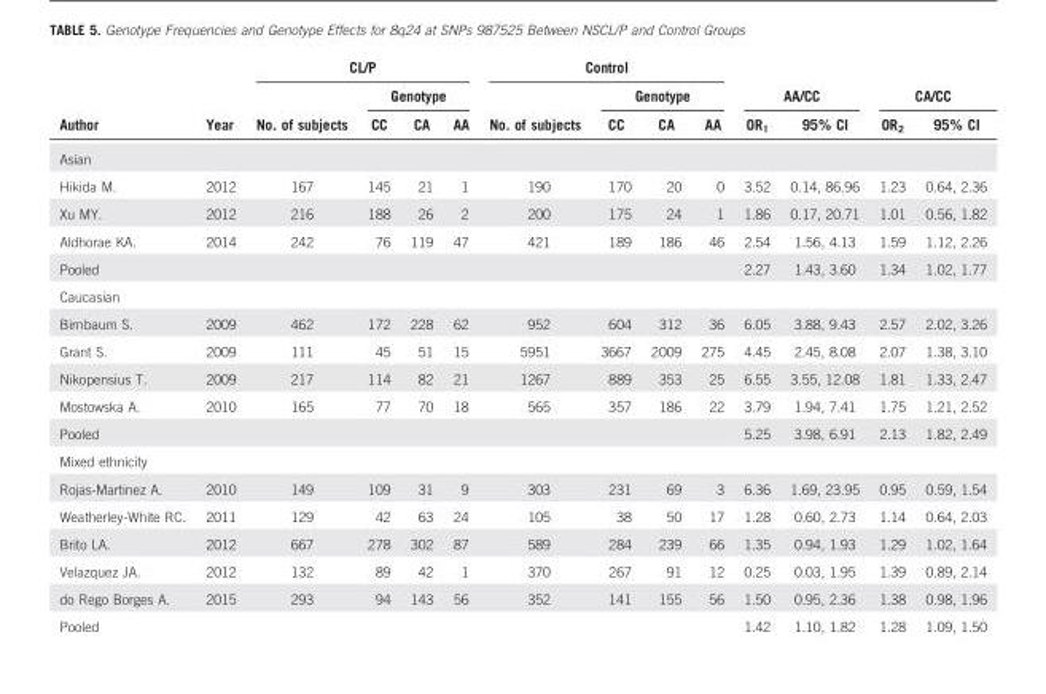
<table><thead><tr><td rowspan="3">Author</td><td rowspan="3">Year</td><td colspan="4">CL/P</td><td colspan="4">Control</td><td></td><td></td><td></td><td></td></tr><tr><td rowspan="2">No. of subjects</td><td colspan="3">Genotype</td><td rowspan="2">No. of subjects</td><td colspan="3">Genotype</td><td colspan="2">AA/CC</td><td colspan="2">CA/CC</td></tr><tr><td>CC</td><td>CA</td><td>AA</td><td>CC</td><td>CA</td><td>AA</td><td>OR<sub>1</sub></td><td>95% CI</td><td>OR<sub>2</sub></td><td>95% CI</td></tr></thead><tbody><tr><td colspan="14">Asian</td></tr><tr><td>Hikida M.</td><td>2012</td><td>167</td><td>145</td><td>21</td><td>1</td><td>190</td><td>170</td><td>20</td><td>0</td><td>3.52</td><td>0.14, 86.96</td><td>1.23</td><td>0.64, 2.36</td></tr><tr><td>Xu MY.</td><td>2012</td><td>216</td><td>188</td><td>26</td><td>2</td><td>200</td><td>175</td><td>24</td><td>1</td><td>1.86</td><td>0.17, 20.71</td><td>1.01</td><td>0.56, 1.82</td></tr><tr><td>Aldhorae KA.</td><td>2014</td><td>242</td><td>76</td><td>119</td><td>47</td><td>421</td><td>189</td><td>186</td><td>46</td><td>2.54</td><td>1.56, 4.13</td><td>1.59</td><td>1.12, 2.26</td></tr><tr><td>Pooled</td><td></td><td></td><td></td><td></td><td></td><td></td><td></td><td></td><td></td><td>2.27</td><td>1.43, 3.60</td><td>1.34</td><td>1.02, 1.77</td></tr><tr><td colspan="14">Caucasian</td></tr><tr><td>Birnbaum S.</td><td>2009</td><td>462</td><td>172</td><td>228</td><td>62</td><td>952</td><td>604</td><td>312</td><td>36</td><td>6.05</td><td>3.88, 9.43</td><td>2.57</td><td>2.02, 3.26</td></tr><tr><td>Grant S.</td><td>2009</td><td>111</td><td>45</td><td>51</td><td>15</td><td>5951</td><td>3667</td><td>2009</td><td>275</td><td>4.45</td><td>2.45, 8.08</td><td>2.07</td><td>1.38, 3.10</td></tr><tr><td>Nikopensius T.</td><td>2009</td><td>217</td><td>114</td><td>82</td><td>21</td><td>1267</td><td>889</td><td>353</td><td>25</td><td>6.55</td><td>3.55, 12.08</td><td>1.81</td><td>1.33, 2.47</td></tr><tr><td>Mostowska A.</td><td>2010</td><td>165</td><td>77</td><td>70</td><td>18</td><td>565</td><td>357</td><td>186</td><td>22</td><td>3.79</td><td>1.94, 7.41</td><td>1.75</td><td>1.21, 2.52</td></tr><tr><td>Pooled</td><td></td><td></td><td></td><td></td><td></td><td></td><td></td><td></td><td></td><td>5.25</td><td>3.98, 6.91</td><td>2.13</td><td>1.82, 2.49</td></tr><tr><td colspan="14">Mixed ethnicity</td></tr><tr><td>Rojas-Martinez A.</td><td>2010</td><td>149</td><td>109</td><td>31</td><td>9</td><td>303</td><td>231</td><td>69</td><td>3</td><td>6.36</td><td>1.69, 23.95</td><td>0.95</td><td>0.59, 1.54</td></tr><tr><td>Weatherley-White RC.</td><td>2011</td><td>129</td><td>42</td><td>63</td><td>24</td><td>105</td><td>38</td><td>50</td><td>17</td><td>1.28</td><td>0.60, 2.73</td><td>1.14</td><td>0.64, 2.03</td></tr><tr><td>Brito LA.</td><td>2012</td><td>667</td><td>278</td><td>302</td><td>87</td><td>589</td><td>284</td><td>239</td><td>66</td><td>1.35</td><td>0.94, 1.93</td><td>1.29</td><td>1.02, 1.64</td></tr><tr><td>Velazquez JA.</td><td>2012</td><td>132</td><td>89</td><td>42</td><td>1</td><td>370</td><td>267</td><td>91</td><td>12</td><td>0.25</td><td>0.03, 1.95</td><td>1.39</td><td>0.89, 2.14</td></tr><tr><td>do Rego Borges A.</td><td>2015</td><td>293</td><td>94</td><td>143</td><td>56</td><td>352</td><td>141</td><td>155</td><td>56</td><td>1.50</td><td>0.95, 2.36</td><td>1.38</td><td>0.98, 1.96</td></tr><tr><td>Pooled</td><td></td><td></td><td></td><td></td><td></td><td></td><td></td><td></td><td></td><td>1.42</td><td>1.10, 1.82</td><td>1.28</td><td>1.09, 1.50</td></tr></tbody></table>